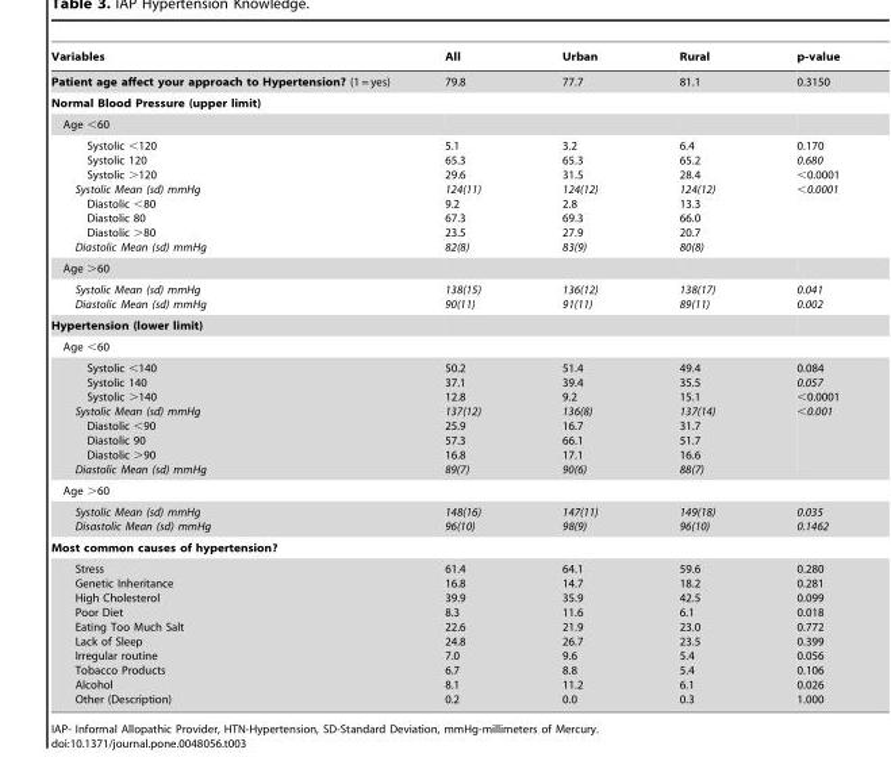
<table><thead><tr><td>Variables</td><td>All</td><td>Urban</td><td>Rural</td><td>p-value</td></tr></thead><tbody><tr><td>Patient age affect your approach to Hypertension? (1 = yes)</td><td>79.8</td><td>77.7</td><td>81.1</td><td>0.3150</td></tr><tr><td colspan="5">Normal Blood Pressure (upper limit)</td></tr><tr><td colspan="5">Age &lt;60</td></tr><tr><td>Systolic &lt;120 Systolic 120 Systolic &gt;120 Systolic Mean (sd) mmHg Diastolic &lt;80 Diastolic 80 Diastolic &gt;80 Diastolic Mean (sd) mmHg</td><td>5.1 65.3 29.6 124(11) 9.2 67.3 23.5 82(8)</td><td>3.2 65.3 31.5 124(12) 2.8 69.3 27.9 83(9)</td><td>6.4 65.2 28.4 124(12) 13.3 66.0 20.7 80(8)</td><td>0.170 0.680 &lt;0.0001 &lt;0.0001</td></tr><tr><td colspan="5">Age &gt;60</td></tr><tr><td>Systolic Mean (sd) mmHg Diastolic Mean (sd) mmHg</td><td>138(15) 90(11)</td><td>136(12) 91(11)</td><td>138(17) 89(11)</td><td>0.041 0.002</td></tr><tr><td colspan="5">Hypertension (lower limit)</td></tr><tr><td colspan="5">Age &lt;60</td></tr><tr><td>Systolic &lt;140 Systolic 140 Systolic &gt;140 Systolic Mean (sd) mmHg Diastolic &lt;90 Diastolic 90 Diastolic &gt;90 Diastolic Mean (sd) mmHg</td><td>50.2 37.1 12.8 137(12) 25.9 57.3 16.8 89(7)</td><td>51.4 39.4 9.2 136(8) 16.7 66.1 17.1 90(6)</td><td>49.4 35.5 15.1 137(14) 31.7 51.7 16.6 88(7)</td><td>0.084 0.057 &lt;0.0001 &lt;0.001</td></tr><tr><td colspan="5">Age &gt;60</td></tr><tr><td>Systolic Mean (sd) mmHg Disastolic Mean (sd) mmHg</td><td>148(16) 96(10)</td><td>147(11) 98(9)</td><td>149(18) 96(10)</td><td>0.035 0.1462</td></tr><tr><td colspan="5">Most common causes of hypertension?</td></tr><tr><td>Stress Genetic Inheritance High Cholesterol Poor Diet Eating Too Much Salt Lack of Sleep Irregular routine Tobacco Products Alcohol Other (Description)</td><td>61.4 16.8 39.9 8.3 22.6 24.8 7.0 6.7 8.1 0.2</td><td>64.1 14.7 35.9 11.6 21.9 26.7 9.6 8.8 11.2 0.0</td><td>59.6 18.2 42.5 6.1 23.0 23.5 5.4 5.4 6.1 0.3</td><td>0.280 0.281 0.099 0.018 0.772 0.399 0.056 0.106 0.026 1.000</td></tr></tbody></table>